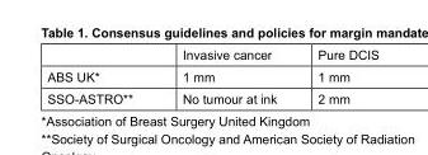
<table><thead><tr><td></td><td>Invasive cancer</td><td>Pure DCIS</td></tr></thead><tbody><tr><td>ABS UK*</td><td>1 mm</td><td>1 mm</td></tr><tr><td>SSO-ASTRO**</td><td>No tumour at ink</td><td>2 mm</td></tr></tbody></table>